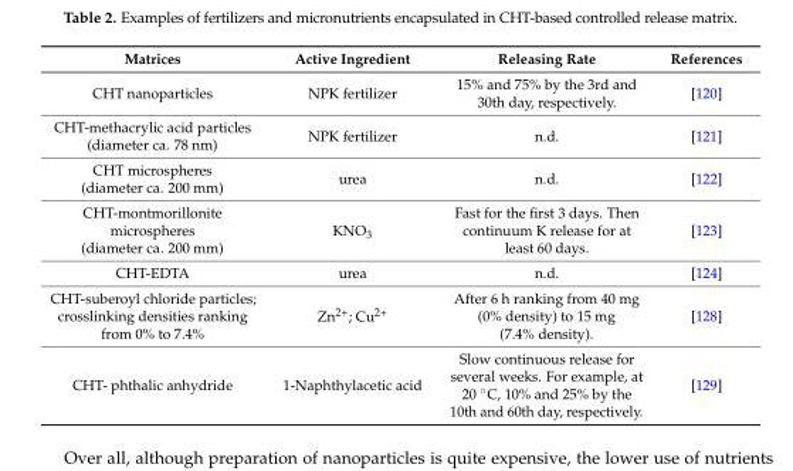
<table><thead><tr><td>Matrices</td><td>Active Ingredient</td><td>Releasing Rate</td><td>References</td></tr></thead><tbody><tr><td>CHT nanoparticles</td><td>NPK fertilizer</td><td>15% and 75% by the 3rd and 30th day, respectively.</td><td>[120]</td></tr><tr><td>CHT-methacrylic acid particles (diameter ca. 78 nm)</td><td>NPK fertilizer</td><td>n.d.</td><td>[121]</td></tr><tr><td>CHT microspheres (diameter ca. 200 mm)</td><td>urea</td><td>n.d.</td><td>[122]</td></tr><tr><td>CHT-montmorillonite microspheres (diameter ca. 200 mm)</td><td>KNO<sub>3</sub></td><td>Fast for the first 3 days. Then continuum K release for at least 60 days.</td><td>[123]</td></tr><tr><td>CHT-EDTA</td><td>urea</td><td>n.d.</td><td>[124]</td></tr><tr><td>CHT-suberoyl chloride particles; crosslinking densities ranking from 0% to 7.4%</td><td>Zn<sup>2+</sup>; Cu<sup>2+</sup></td><td>After 6 h ranking from 40 mg (0% density) to 15 mg (7.4% density).</td><td>[128]</td></tr><tr><td>CHT- phthalic anhydride</td><td>1-Naphthylacetic acid</td><td>Slow continuous release for several weeks. For example, at 20 ˝C, 10% and 25% by the 10th and 60th day, respectively.</td><td>[129]</td></tr></tbody></table>